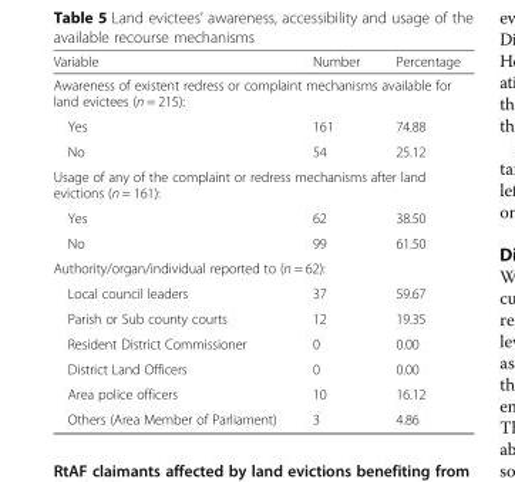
<table><thead><tr><td>Variable</td><td>Number</td><td>Percentage</td></tr></thead><tbody><tr><td colspan="3">Awareness of existent redress or complaint mechanisms available for land evictees (n = 215):</td></tr><tr><td>Yes</td><td>161</td><td>74.88</td></tr><tr><td>No</td><td>54</td><td>25.12</td></tr><tr><td colspan="3">Usage of any of the complaint or redress mechanisms after land evictions (n = 161):</td></tr><tr><td>Yes</td><td>62</td><td>38.50</td></tr><tr><td>No</td><td>99</td><td>61.50</td></tr><tr><td colspan="3">Authority/organ/individual reported to (n = 62):</td></tr><tr><td>Local council leaders</td><td>37</td><td>59.67</td></tr><tr><td>Parish or Sub county courts</td><td>12</td><td>19.35</td></tr><tr><td>Resident District Commissioner</td><td>0</td><td>0.00</td></tr><tr><td>District Land Officers</td><td>0</td><td>0.00</td></tr><tr><td>Area police officers</td><td>10</td><td>16.12</td></tr><tr><td>Others (Area Member of Parliament)</td><td>3</td><td>4.86</td></tr></tbody></table>